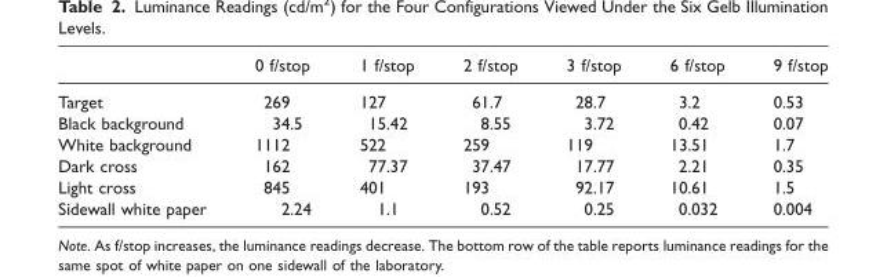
<table><thead><tr><td></td><td>0 f/stop</td><td>1 f/stop</td><td>2 f/stop</td><td>3 f/stop</td><td>6 f/stop</td><td>9 f/stop</td></tr></thead><tbody><tr><td>Target</td><td>269</td><td>127</td><td>61.7</td><td>28.7</td><td>3.2</td><td>0.53</td></tr><tr><td>Black background</td><td>34.5</td><td>15.42</td><td>8.55</td><td>3.72</td><td>0.42</td><td>0.07</td></tr><tr><td>White background</td><td>1112</td><td>522</td><td>259</td><td>119</td><td>13.51</td><td>1.7</td></tr><tr><td>Dark cross</td><td>162</td><td>77.37</td><td>37.47</td><td>17.77</td><td>2.21</td><td>0.35</td></tr><tr><td>Light cross</td><td>845</td><td>401</td><td>193</td><td>92.17</td><td>10.61</td><td>1.5</td></tr><tr><td>Sidewall white paper</td><td>2.24</td><td>1.1</td><td>0.52</td><td>0.25</td><td>0.032</td><td>0.004</td></tr></tbody></table>